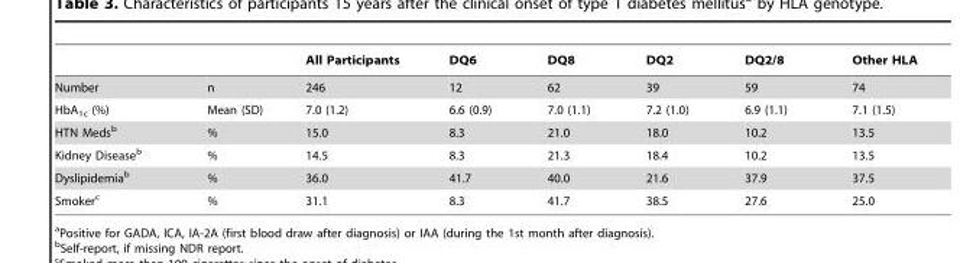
<table><thead><tr><td></td><td></td><td>All Participants</td><td>DQ6</td><td>DQ8</td><td>DQ2</td><td>DQ2/8</td><td>Other HLA</td></tr></thead><tbody><tr><td>Number</td><td>n</td><td>246</td><td>12</td><td>62</td><td>39</td><td>59</td><td>74</td></tr><tr><td>HbA<sub>1c</sub> (%)</td><td>Mean (SD)</td><td>7.0 (1.2)</td><td>6.6 (0.9)</td><td>7.0 (1.1)</td><td>7.2 (1.0)</td><td>6.9 (1.1)</td><td>7.1 (1.5)</td></tr><tr><td>HTN Meds<sup>b</sup></td><td>%</td><td>15.0</td><td>8.3</td><td>21.0</td><td>18.0</td><td>10.2</td><td>13.5</td></tr><tr><td>Kidney Disease<sup>b</sup></td><td>%</td><td>14.5</td><td>8.3</td><td>21.3</td><td>18.4</td><td>10.2</td><td>13.5</td></tr><tr><td>Dyslipidemia<sup>b</sup></td><td>%</td><td>36.0</td><td>41.7</td><td>40.0</td><td>21.6</td><td>37.9</td><td>37.5</td></tr><tr><td>Smoker<sup>c</sup></td><td>%</td><td>31.1</td><td>8.3</td><td>41.7</td><td>38.5</td><td>27.6</td><td>25.0</td></tr></tbody></table>